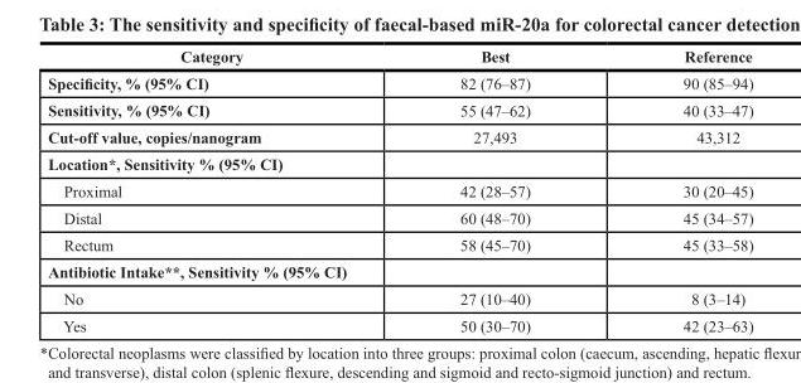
<table><thead><tr><td>Category</td><td>Best</td><td>Reference</td></tr></thead><tbody><tr><td>Specificity, % (95% CI)</td><td>82 (76–87)</td><td>90 (85–94)</td></tr><tr><td>Sensitivity, % (95% CI)</td><td>55 (47–62)</td><td>40 (33–47)</td></tr><tr><td>Cut-off value, copies/nanogram</td><td>27,493</td><td>43,312</td></tr><tr><td colspan="3">Location*, Sensitivity % (95% CI)</td></tr><tr><td>Proximal</td><td>42 (28–57)</td><td>30 (20–45)</td></tr><tr><td>Distal</td><td>60 (48–70)</td><td>45 (34–57)</td></tr><tr><td>Rectum</td><td>58 (45–70)</td><td>45 (33–58)</td></tr><tr><td colspan="3">Antibiotic Intake**, Sensitivity % (95% CI)</td></tr><tr><td>No</td><td>27 (10–40)</td><td>8 (3–14)</td></tr><tr><td>Yes</td><td>50 (30–70)</td><td>42 (23–63)</td></tr></tbody></table>